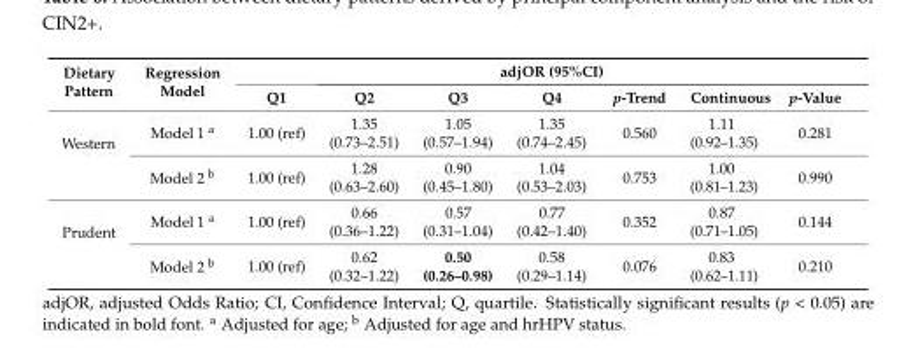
<table><thead><tr><td rowspan="2">Dietary Pattern</td><td rowspan="2">Regression Model</td><td colspan="7">adjOR (95%CI)</td></tr><tr><td>Q1</td><td>Q2</td><td>Q3</td><td>Q4</td><td>p-Trend</td><td>Continuous</td><td>p-Value</td></tr></thead><tbody><tr><td rowspan="2">Western</td><td>Model 1 <sup>a</sup></td><td>1.00 (ref)</td><td>1.35 (0.73–2.51)</td><td>1.05 (0.57–1.94)</td><td>1.35 (0.74–2.45)</td><td>0.560</td><td>1.11 (0.92–1.35)</td><td>0.281</td></tr><tr><td>Model 2 <sup>b</sup></td><td>1.00 (ref)</td><td>1.28 (0.63–2.60)</td><td>0.90 (0.45–1.80)</td><td>1.04 (0.53–2.03)</td><td>0.753</td><td>1.00 (0.81–1.23)</td><td>0.990</td></tr><tr><td rowspan="2">Prudent</td><td>Model 1 <sup>a</sup></td><td>1.00 (ref)</td><td>0.66 (0.36–1.22)</td><td>0.57 (0.31–1.04)</td><td>0.77 (0.42–1.40)</td><td>0.352</td><td>0.87 (0.71–1.05)</td><td>0.144</td></tr><tr><td>Model 2 <sup>b</sup></td><td>1.00 (ref)</td><td>0.62 (0.32–1.22)</td><td>0.50 (0.26–0.98)</td><td>0.58 (0.29–1.14)</td><td>0.076</td><td>0.83 (0.62–1.11)</td><td>0.210</td></tr></tbody></table>